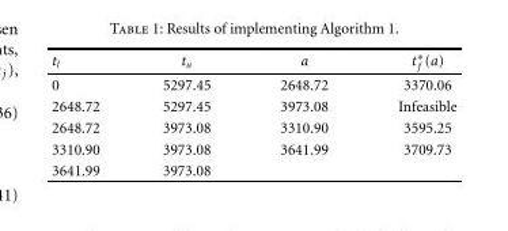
<table><thead><tr><td>t<sub>l</sub></td><td>t<sub>u</sub></td><td>a</td><td>t∗ f (a)</td></tr></thead><tbody><tr><td>0</td><td>5297.45</td><td>2648.72</td><td>3370.06</td></tr><tr><td>2648.72</td><td>5297.45</td><td>3973.08</td><td>Infeasible</td></tr><tr><td>2648.72</td><td>3973.08</td><td>3310.90</td><td>3595.25</td></tr><tr><td>3310.90</td><td>3973.08</td><td>3641.99</td><td>3709.73</td></tr><tr><td>3641.99</td><td>3973.08</td><td></td><td></td></tr></tbody></table>